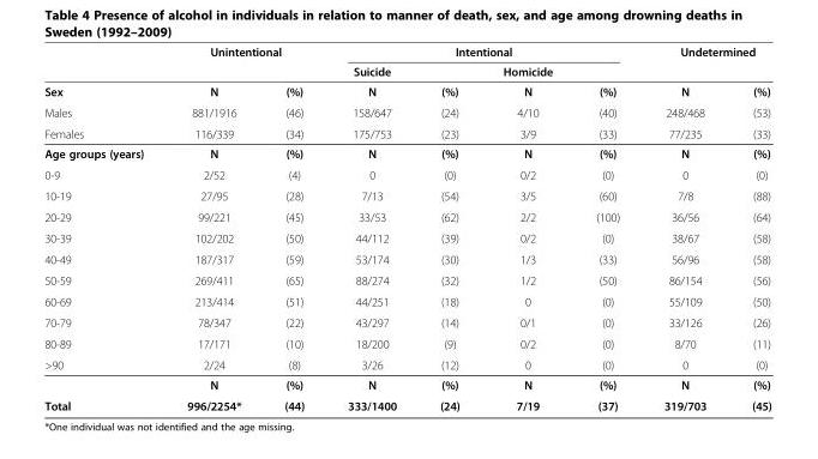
<table><thead><tr><td rowspan="2"></td><td colspan="2">Unintentional</td><td colspan="4">Intentional</td><td colspan="2">Undetermined</td></tr><tr><td></td><td></td><td>Suicide</td><td></td><td>Homicide</td><td></td><td></td><td></td></tr></thead><tbody><tr><td>Sex</td><td>N</td><td>(%)</td><td>N</td><td>(%)</td><td>N</td><td>(%)</td><td>N</td><td>(%)</td></tr><tr><td>Males</td><td>881/1916</td><td>(46)</td><td>158/647</td><td>(24)</td><td>4/10</td><td>(40)</td><td>248/468</td><td>(53)</td></tr><tr><td>Females</td><td>116/339</td><td>(34)</td><td>175/753</td><td>(23)</td><td>3/9</td><td>(33)</td><td>77/235</td><td>(33)</td></tr><tr><td>Age groups (years)</td><td>N</td><td>(%)</td><td>N</td><td>(%)</td><td>N</td><td>(%)</td><td>N</td><td>(%)</td></tr><tr><td>0-9</td><td>2/52</td><td>(4)</td><td>0</td><td>(0)</td><td>0/2</td><td>(0)</td><td>0</td><td>(0)</td></tr><tr><td>10-19</td><td>27/95</td><td>(28)</td><td>7/13</td><td>(54)</td><td>3/5</td><td>(60)</td><td>7/8</td><td>(88)</td></tr><tr><td>20-29</td><td>99/221</td><td>(45)</td><td>33/53</td><td>(62)</td><td>2/2</td><td>(100)</td><td>36/56</td><td>(64)</td></tr><tr><td>30-39</td><td>102/202</td><td>(50)</td><td>44/112</td><td>(39)</td><td>0/2</td><td>(0)</td><td>38/67</td><td>(58)</td></tr><tr><td>40-49</td><td>187/317</td><td>(59)</td><td>53/174</td><td>(30)</td><td>1/3</td><td>(33)</td><td>56/96</td><td>(58)</td></tr><tr><td>50-59</td><td>269/411</td><td>(65)</td><td>88/274</td><td>(32)</td><td>1/2</td><td>(50)</td><td>86/154</td><td>(56)</td></tr><tr><td>60-69</td><td>213/414</td><td>(51)</td><td>44/251</td><td>(18)</td><td>0</td><td>(0)</td><td>55/109</td><td>(50)</td></tr><tr><td>70-79</td><td>78/347</td><td>(22)</td><td>43/297</td><td>(14)</td><td>0/1</td><td>(0)</td><td>33/126</td><td>(26)</td></tr><tr><td>80-89</td><td>17/171</td><td>(10)</td><td>18/200</td><td>(9)</td><td>0/2</td><td>(0)</td><td>8/70</td><td>(11)</td></tr><tr><td rowspan="2">&gt;90</td><td>2/24</td><td>(8)</td><td>3/26</td><td>(12)</td><td>0</td><td>(0)</td><td>0</td><td>(0)</td></tr><tr><td>N</td><td>(%)</td><td>N</td><td>(%)</td><td>N</td><td>(%)</td><td>N</td><td>(%)</td></tr><tr><td>Total</td><td>996/2254*</td><td>(44)</td><td>333/1400</td><td>(24)</td><td>7/19</td><td>(37)</td><td>319/703</td><td>(45)</td></tr></tbody></table>